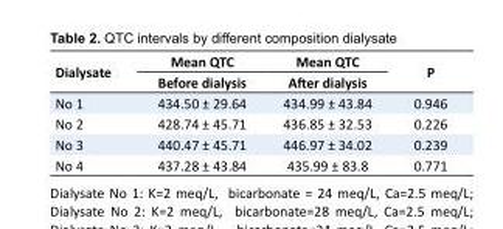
<table><tbody><tr><td rowspan="2">Dialysate</td><td>Mean QTC</td><td>Mean QTC</td><td rowspan="2">P</td></tr><tr><td>Before dialysis</td><td>After dialysis</td></tr><tr><td>No 1</td><td>434.50 ± 29.64</td><td>434.99 ± 43.84</td><td>0.946</td></tr><tr><td>No 2</td><td>428.74 ± 45.71</td><td>436.85 ± 32.53</td><td>0.226</td></tr><tr><td>No 3</td><td>440.47 ± 45.71</td><td>446.97 ± 34.02</td><td>0.239</td></tr><tr><td>No 4</td><td>437.28 ± 43.84</td><td>435.99 ± 83.8</td><td>0.771</td></tr></tbody></table>